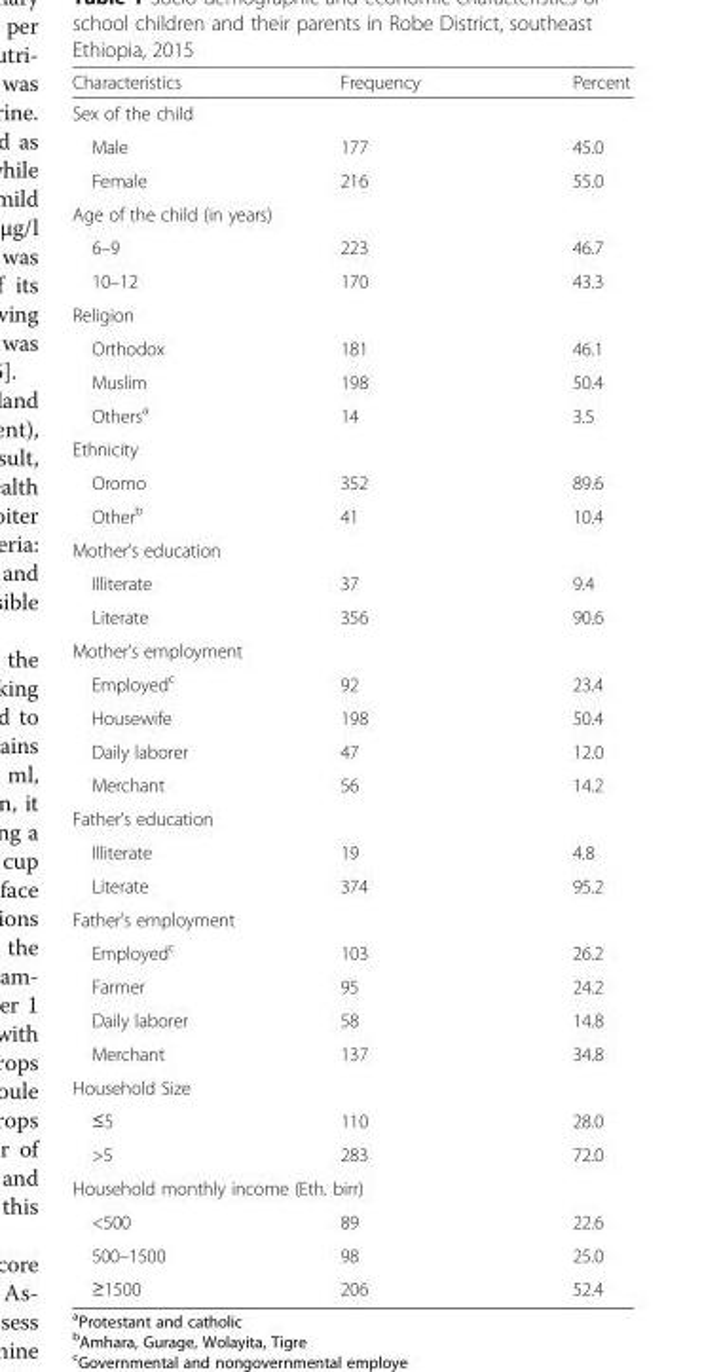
<table><thead><tr><td>Characteristics</td><td>Frequency</td><td>Percent</td></tr></thead><tbody><tr><td colspan="3">Sex of the child</td></tr><tr><td>Male</td><td>177</td><td>45.0</td></tr><tr><td>Female</td><td>216</td><td>55.0</td></tr><tr><td colspan="3">Age of the child (in years)</td></tr><tr><td>6–9</td><td>223</td><td>46.7</td></tr><tr><td>10–12</td><td>170</td><td>43.3</td></tr><tr><td colspan="3">Religion</td></tr><tr><td>Orthodox</td><td>181</td><td>46.1</td></tr><tr><td>Muslim</td><td>198</td><td>50.4</td></tr><tr><td>Others<sup>a</sup></td><td>14</td><td>3.5</td></tr><tr><td colspan="3">Ethnicity</td></tr><tr><td>Oromo</td><td>352</td><td>89.6</td></tr><tr><td>Other<sup>b</sup></td><td>41</td><td>10.4</td></tr><tr><td colspan="3">Mother’s education</td></tr><tr><td>Illiterate</td><td>37</td><td>9.4</td></tr><tr><td>Literate</td><td>356</td><td>90.6</td></tr><tr><td colspan="3">Mother’s employment</td></tr><tr><td>Employed<sup>c</sup></td><td>92</td><td>23.4</td></tr><tr><td>Housewife</td><td>198</td><td>50.4</td></tr><tr><td>Daily laborer</td><td>47</td><td>12.0</td></tr><tr><td>Merchant</td><td>56</td><td>14.2</td></tr><tr><td colspan="3">Father’s education</td></tr><tr><td>Illiterate</td><td>19</td><td>4.8</td></tr><tr><td>Literate</td><td>374</td><td>95.2</td></tr><tr><td colspan="3">Father’s employment</td></tr><tr><td>Employed<sup>c</sup></td><td>103</td><td>26.2</td></tr><tr><td>Farmer</td><td>95</td><td>24.2</td></tr><tr><td>Daily laborer</td><td>58</td><td>14.8</td></tr><tr><td>Merchant</td><td>137</td><td>34.8</td></tr><tr><td colspan="3">Household Size</td></tr><tr><td>≤5</td><td>110</td><td>28.0</td></tr><tr><td>&gt;5</td><td>283</td><td>72.0</td></tr><tr><td colspan="3">Household monthly income (Eth. birr)</td></tr><tr><td>&lt;500</td><td>89</td><td>22.6</td></tr><tr><td>500–1500</td><td>98</td><td>25.0</td></tr><tr><td>≥1500</td><td>206</td><td>52.4</td></tr></tbody></table>